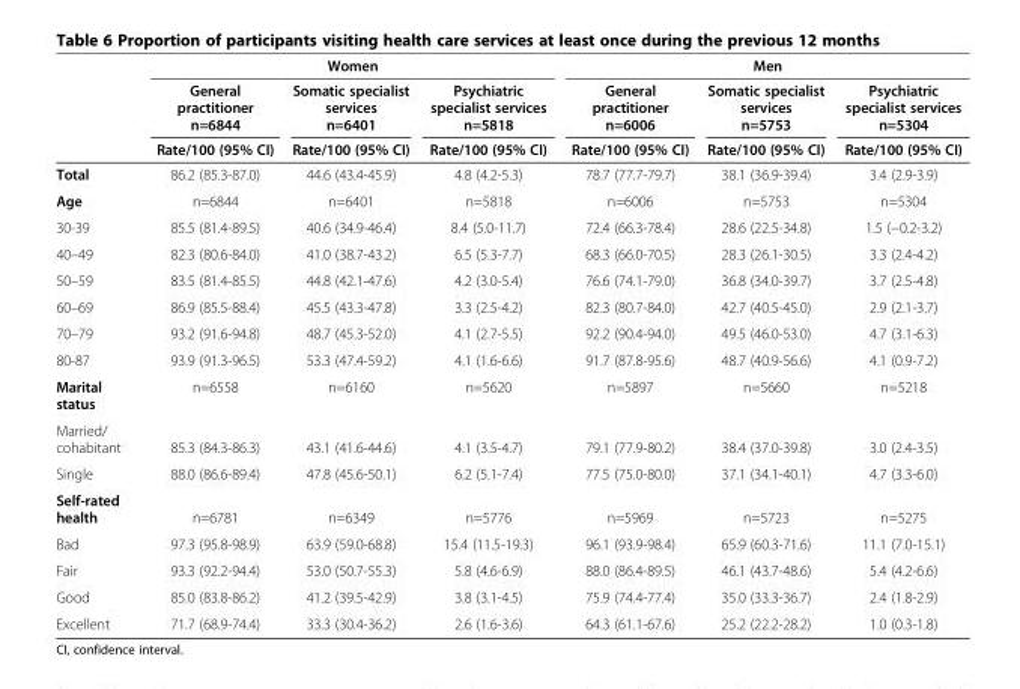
<table><thead><tr><td rowspan="3"></td><td colspan="3">Women</td><td colspan="3">Men</td></tr><tr><td rowspan="2">General practitioner n=6844 Rate/100 (95% CI)</td><td rowspan="2">Somatic specialist services n=6401 Rate/100 (95% CI)</td><td rowspan="2">Psychiatric specialist services n=5818 Rate/100 (95% CI)</td><td rowspan="2">General practitioner n=6006 Rate/100 (95% CI)</td><td rowspan="2">Somatic specialist services n=5753 Rate/100 (95% CI)</td><td rowspan="2">Psychiatric specialist services n=5304 Rate/100 (95% CI)</td></tr><tr></tr></thead><tbody><tr><td>Total</td><td>86.2 (85.3-87.0)</td><td>44.6 (43.4-45.9)</td><td>4.8 (4.2-5.3)</td><td>78.7 (77.7-79.7)</td><td>38.1 (36.9-39.4)</td><td>3.4 (2.9-3.9)</td></tr><tr><td>Age</td><td>n=6844</td><td>n=6401</td><td>n=5818</td><td>n=6006</td><td>n=5753</td><td>n=5304</td></tr><tr><td>30-39</td><td>85.5 (81.4-89.5)</td><td>40.6 (34.9-46.4)</td><td>8.4 (5.0-11.7)</td><td>72.4 (66.3-78.4)</td><td>28.6 (22.5-34.8)</td><td>1.5 (−0.2-3.2)</td></tr><tr><td>40–49</td><td>82.3 (80.6-84.0)</td><td>41.0 (38.7-43.2)</td><td>6.5 (5.3-7.7)</td><td>68.3 (66.0-70.5)</td><td>28.3 (26.1-30.5)</td><td>3.3 (2.4-4.2)</td></tr><tr><td>50–59</td><td>83.5 (81.4-85.5)</td><td>44.8 (42.1-47.6)</td><td>4.2 (3.0-5.4)</td><td>76.6 (74.1-79.0)</td><td>36.8 (34.0-39.7)</td><td>3.7 (2.5-4.8)</td></tr><tr><td>60–69</td><td>86.9 (85.5-88.4)</td><td>45.5 (43.3-47.8)</td><td>3.3 (2.5-4.2)</td><td>82.3 (80.7-84.0)</td><td>42.7 (40.5-45.0)</td><td>2.9 (2.1-3.7)</td></tr><tr><td>70–79</td><td>93.2 (91.6-94.8)</td><td>48.7 (45.3-52.0)</td><td>4.1 (2.7-5.5)</td><td>92.2 (90.4-94.0)</td><td>49.5 (46.0-53.0)</td><td>4.7 (3.1-6.3)</td></tr><tr><td>80-87</td><td>93.9 (91.3-96.5)</td><td>53.3 (47.4-59.2)</td><td>4.1 (1.6-6.6)</td><td>91.7 (87.8-95.6)</td><td>48.7 (40.9-56.6)</td><td>4.1 (0.9-7.2)</td></tr><tr><td>Marital status</td><td>n=6558</td><td>n=6160</td><td>n=5620</td><td>n=5897</td><td>n=5660</td><td>n=5218</td></tr><tr><td>Married/ cohabitant</td><td>85.3 (84.3-86.3)</td><td>43.1 (41.6-44.6)</td><td>4.1 (3.5-4.7)</td><td>79.1 (77.9-80.2)</td><td>38.4 (37.0-39.8)</td><td>3.0 (2.4-3.5)</td></tr><tr><td>Single</td><td>88.0 (86.6-89.4)</td><td>47.8 (45.6-50.1)</td><td>6.2 (5.1-7.4)</td><td>77.5 (75.0-80.0)</td><td>37.1 (34.1-40.1)</td><td>4.7 (3.3-6.0)</td></tr><tr><td>Self-rated health</td><td>n=6781</td><td>n=6349</td><td>n=5776</td><td>n=5969</td><td>n=5723</td><td>n=5275</td></tr><tr><td>Bad</td><td>97.3 (95.8-98.9)</td><td>63.9 (59.0-68.8)</td><td>15.4 (11.5-19.3)</td><td>96.1 (93.9-98.4)</td><td>65.9 (60.3-71.6)</td><td>11.1 (7.0-15.1)</td></tr><tr><td>Fair</td><td>93.3 (92.2-94.4)</td><td>53.0 (50.7-55.3)</td><td>5.8 (4.6-6.9)</td><td>88.0 (86.4-89.5)</td><td>46.1 (43.7-48.6)</td><td>5.4 (4.2-6.6)</td></tr><tr><td>Good</td><td>85.0 (83.8-86.2)</td><td>41.2 (39.5-42.9)</td><td>3.8 (3.1-4.5)</td><td>75.9 (74.4-77.4)</td><td>35.0 (33.3-36.7)</td><td>2.4 (1.8-2.9)</td></tr><tr><td>Excellent</td><td>71.7 (68.9-74.4)</td><td>33.3 (30.4-36.2)</td><td>2.6 (1.6-3.6)</td><td>64.3 (61.1-67.6)</td><td>25.2 (22.2-28.2)</td><td>1.0 (0.3-1.8)</td></tr></tbody></table>